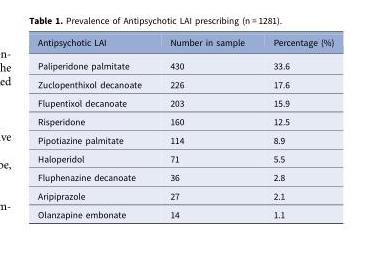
<table><thead><tr><td>Antipsychotic LAI</td><td>Number in sample</td><td>Percentage (%)</td></tr></thead><tbody><tr><td>Paliperidone palmitate</td><td>430</td><td>33.6</td></tr><tr><td>Zuclopenthixol decanoate</td><td>226</td><td>17.6</td></tr><tr><td>Flupentixol decanoate</td><td>203</td><td>15.9</td></tr><tr><td>Risperidone</td><td>160</td><td>12.5</td></tr><tr><td>Pipotiazine palmitate</td><td>114</td><td>8.9</td></tr><tr><td>Haloperidol</td><td>71</td><td>5.5</td></tr><tr><td>Fluphenazine decanoate</td><td>36</td><td>2.8</td></tr><tr><td>Aripiprazole</td><td>27</td><td>2.1</td></tr><tr><td>Olanzapine embonate</td><td>14</td><td>1.1</td></tr></tbody></table>